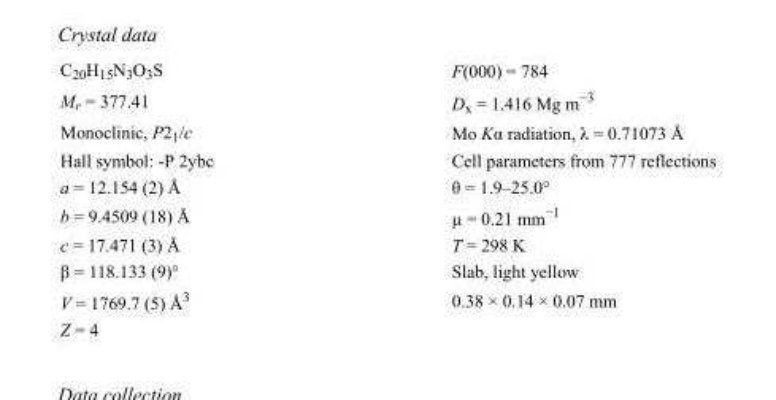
<table><tbody><tr><td>C<sub>20</sub>H<sub>15</sub>N<sub>3</sub>O<sub>3</sub>S</td><td>F(000) = 784</td></tr><tr><td>M<sub>r</sub> = 377.41</td><td>D<sub>x</sub> = 1.416 Mg m<sup>−3</sup></td></tr><tr><td>Monoclinic, P2<sub>1</sub>/c</td><td>Mo Kα radiation, λ = 0.71073 Å</td></tr><tr><td>Hall symbol: -P 2ybc</td><td>Cell parameters from 777 reflections</td></tr><tr><td>a = 12.154 (2) Å</td><td>θ = 1.9–25.0°</td></tr><tr><td>b = 9.4509 (18) Å</td><td>µ = 0.21 mm<sup>−1</sup></td></tr><tr><td>c = 17.471 (3) Å</td><td>T = 298 K</td></tr><tr><td>β = 118.133 (9)°</td><td>Slab, light yellow</td></tr><tr><td>V = 1769.7 (5) Å<sup>3</sup></td><td>0.38 × 0.14 × 0.07 mm</td></tr><tr><td>Z = 4</td><td></td></tr></tbody></table>